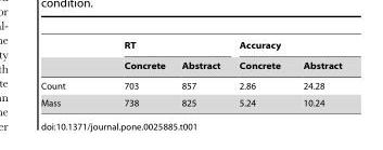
<table><thead><tr><td rowspan="2"></td><td colspan="2">RT</td><td colspan="2">Accuracy</td></tr><tr><td>Concrete</td><td>Abstract</td><td>Concrete</td><td>Abstract</td></tr></thead><tbody><tr><td>Count</td><td>703</td><td>857</td><td>2.86</td><td>24.28</td></tr><tr><td>Mass</td><td>738</td><td>825</td><td>5.24</td><td>10.24</td></tr></tbody></table>